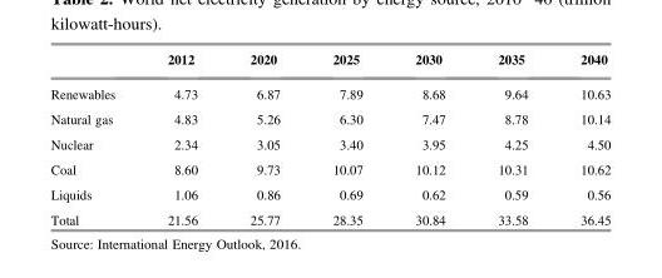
<table><thead><tr><td></td><td>2012</td><td>2020</td><td>2025</td><td>2030</td><td>2035</td><td>2040</td></tr></thead><tbody><tr><td>Renewables</td><td>4.73</td><td>6.87</td><td>7.89</td><td>8.68</td><td>9.64</td><td>10.63</td></tr><tr><td>Natural gas</td><td>4.83</td><td>5.26</td><td>6.30</td><td>7.47</td><td>8.78</td><td>10.14</td></tr><tr><td>Nuclear</td><td>2.34</td><td>3.05</td><td>3.40</td><td>3.95</td><td>4.25</td><td>4.50</td></tr><tr><td>Coal</td><td>8.60</td><td>9.73</td><td>10.07</td><td>10.12</td><td>10.31</td><td>10.62</td></tr><tr><td>Liquids</td><td>1.06</td><td>0.86</td><td>0.69</td><td>0.62</td><td>0.59</td><td>0.56</td></tr><tr><td>Total</td><td>21.56</td><td>25.77</td><td>28.35</td><td>30.84</td><td>33.58</td><td>36.45</td></tr></tbody></table>